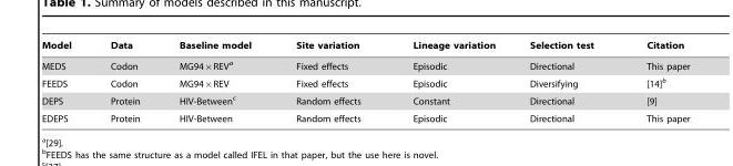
<table><thead><tr><td>Model</td><td>Data</td><td>Baseline model</td><td>Site variation</td><td>Lineage variation</td><td>Selection test</td><td>Citation</td></tr></thead><tbody><tr><td>MEDS</td><td>Codon</td><td>MG94|REVa</td><td>Fixed effects</td><td>Episodic</td><td>Directional</td><td>This paper</td></tr><tr><td>FEEDS</td><td>Codon</td><td>MG94|REV</td><td>Fixed effects</td><td>Episodic</td><td>Diversifying</td><td>[14]b</td></tr><tr><td>DEPS</td><td>Protein</td><td>HIV-Between<sup>c</sup></td><td>Random effects</td><td>Constant</td><td>Directional</td><td>[9]</td></tr><tr><td>EDEPS</td><td>Protein</td><td>HIV-Between</td><td>Random effects</td><td>Episodic</td><td>Directional</td><td>This paper</td></tr></tbody></table>